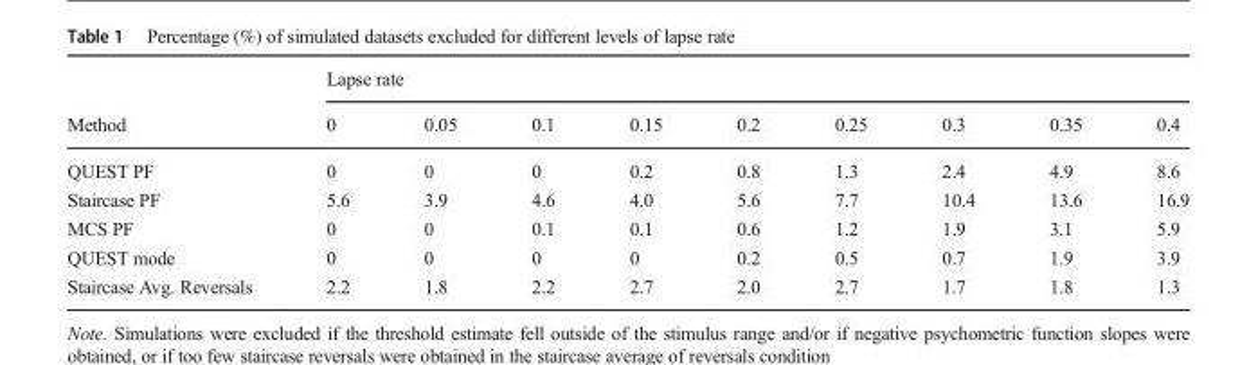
<table><thead><tr><td rowspan="2">Method</td><td colspan="9">Lapse rate</td></tr><tr><td>0</td><td>0.05</td><td>0.1</td><td>0.15</td><td>0.2</td><td>0.25</td><td>0.3</td><td>0.35</td><td>0.4</td></tr></thead><tbody><tr><td>QUEST PF</td><td>0</td><td>0</td><td>0</td><td>0.2</td><td>0.8</td><td>1.3</td><td>2.4</td><td>4.9</td><td>8.6</td></tr><tr><td>Staircase PF</td><td>5.6</td><td>3.9</td><td>4.6</td><td>4.0</td><td>5.6</td><td>7.7</td><td>10.4</td><td>13.6</td><td>16.9</td></tr><tr><td>MCS PF</td><td>0</td><td>0</td><td>0.1</td><td>0.1</td><td>0.6</td><td>1.2</td><td>1.9</td><td>3.1</td><td>5.9</td></tr><tr><td>QUEST mode</td><td>0</td><td>0</td><td>0</td><td>0</td><td>0.2</td><td>0.5</td><td>0.7</td><td>1.9</td><td>3.9</td></tr><tr><td>Staircase Avg. Reversals</td><td>2.2</td><td>1.8</td><td>2.2</td><td>2.7</td><td>2.0</td><td>2.7</td><td>1.7</td><td>1.8</td><td>1.3</td></tr></tbody></table>